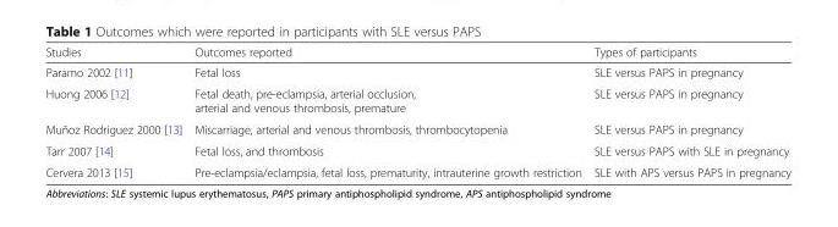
<table><thead><tr><td>Studies</td><td>Outcomes reported</td><td>Types of participants</td></tr></thead><tbody><tr><td>Paramo 2002 [11]</td><td>Fetal loss</td><td>SLE versus PAPS in pregnancy</td></tr><tr><td>Huong 2006 [12]</td><td>Fetal death, pre-eclampsia, arterial occlusion, arterial and venous thrombosis, premature</td><td>SLE versus PAPS in pregnancy</td></tr><tr><td>Muñoz Rodriguez 2000 [13]</td><td>Miscarriage, arterial and venous thrombosis, thrombocytopenia</td><td>SLE versus PAPS in pregnancy</td></tr><tr><td>Tarr 2007 [14]</td><td>Fetal loss, and thrombosis</td><td>SLE versus PAPS with SLE in pregnancy</td></tr><tr><td>Cervera 2013 [15]</td><td>Pre-eclampsia/eclampsia, fetal loss, prematurity, intrauterine growth restriction</td><td>SLE with APS versus PAPS in pregnancy</td></tr></tbody></table>